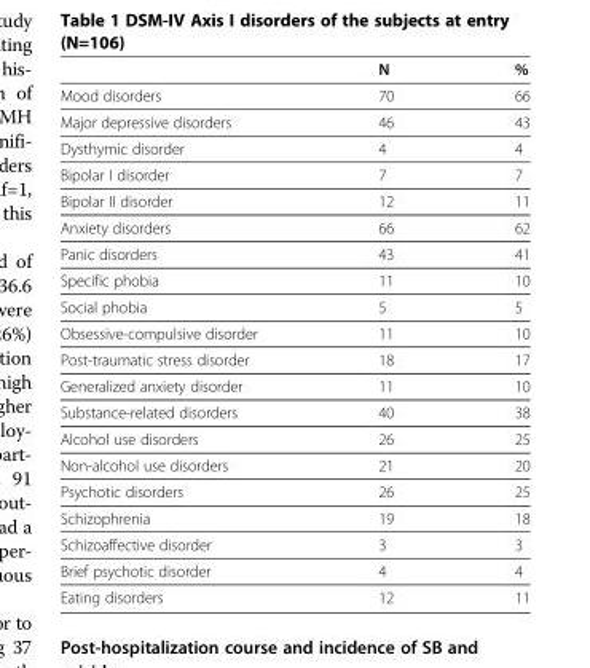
<table><thead><tr><td></td><td>N</td><td>%</td></tr></thead><tbody><tr><td>Mood disorders</td><td>70</td><td>66</td></tr><tr><td>Major depressive disorders</td><td>46</td><td>43</td></tr><tr><td>Dysthymic disorder</td><td>4</td><td>4</td></tr><tr><td>Bipolar I disorder</td><td>7</td><td>7</td></tr><tr><td>Bipolar II disorder</td><td>12</td><td>11</td></tr><tr><td>Anxiety disorders</td><td>66</td><td>62</td></tr><tr><td>Panic disorders</td><td>43</td><td>41</td></tr><tr><td>Specific phobia</td><td>11</td><td>10</td></tr><tr><td>Social phobia</td><td>5</td><td>5</td></tr><tr><td>Obsessive-compulsive disorder</td><td>11</td><td>10</td></tr><tr><td>Post-traumatic stress disorder</td><td>18</td><td>17</td></tr><tr><td>Generalized anxiety disorder</td><td>11</td><td>10</td></tr><tr><td>Substance-related disorders</td><td>40</td><td>38</td></tr><tr><td>Alcohol use disorders</td><td>26</td><td>25</td></tr><tr><td>Non-alcohol use disorders</td><td>21</td><td>20</td></tr><tr><td>Psychotic disorders</td><td>26</td><td>25</td></tr><tr><td>Schizophrenia</td><td>19</td><td>18</td></tr><tr><td>Schizoaffective disorder</td><td>3</td><td>3</td></tr><tr><td>Brief psychotic disorder</td><td>4</td><td>4</td></tr><tr><td>Eating disorders</td><td>12</td><td>11</td></tr></tbody></table>